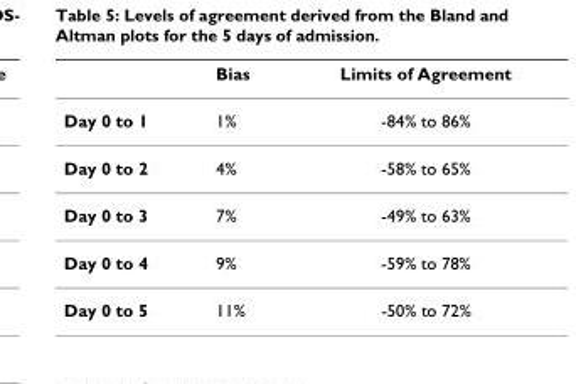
<table><thead><tr><td></td><td>Bias</td><td>Limits of Agreement</td></tr></thead><tbody><tr><td>Day 0 to 1</td><td>1%</td><td>-84% to 86%</td></tr><tr><td>Day 0 to 2</td><td>4%</td><td>-58% to 65%</td></tr><tr><td>Day 0 to 3</td><td>7%</td><td>-49% to 63%</td></tr><tr><td>Day 0 to 4</td><td>9%</td><td>-59% to 78%</td></tr><tr><td>Day 0 to 5</td><td>11%</td><td>-50% to 72%</td></tr></tbody></table>